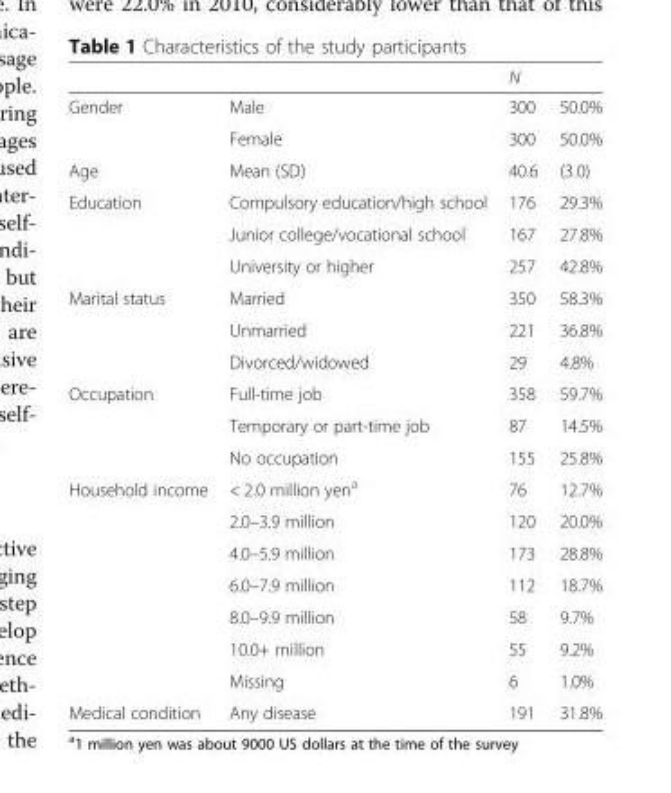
<table><thead><tr><td></td><td></td><td>N</td><td></td></tr></thead><tbody><tr><td rowspan="2">Gender</td><td>Male</td><td>300</td><td>50.0%</td></tr><tr><td>Female</td><td>300</td><td>50.0%</td></tr><tr><td>Age</td><td>Mean (SD)</td><td>40.6</td><td>(3.0)</td></tr><tr><td rowspan="3">Education</td><td>Compulsory education/high school</td><td>176</td><td>29.3%</td></tr><tr><td>Junior college/vocational school</td><td>167</td><td>27.8%</td></tr><tr><td>University or higher</td><td>257</td><td>42.8%</td></tr><tr><td rowspan="3">Marital status</td><td>Married</td><td>350</td><td>58.3%</td></tr><tr><td>Unmarried</td><td>221</td><td>36.8%</td></tr><tr><td>Divorced/widowed</td><td>29</td><td>4.8%</td></tr><tr><td rowspan="3">Occupation</td><td>Full-time job</td><td>358</td><td>59.7%</td></tr><tr><td>Temporary or part-time job</td><td>87</td><td>14.5%</td></tr><tr><td>No occupation</td><td>155</td><td>25.8%</td></tr><tr><td rowspan="7">Household income</td><td>&lt; 2.0 million yen<sup>a</sup></td><td>76</td><td>12.7%</td></tr><tr><td>2.0–3.9 million</td><td>120</td><td>20.0%</td></tr><tr><td>4.0–5.9 million</td><td>173</td><td>28.8%</td></tr><tr><td>6.0–7.9 million</td><td>112</td><td>18.7%</td></tr><tr><td>8.0–9.9 million</td><td>58</td><td>9.7%</td></tr><tr><td>10.0+ million</td><td>55</td><td>9.2%</td></tr><tr><td>Missing</td><td>6</td><td>1.0%</td></tr><tr><td>Medical condition</td><td>Any disease</td><td>191</td><td>31.8%</td></tr></tbody></table>